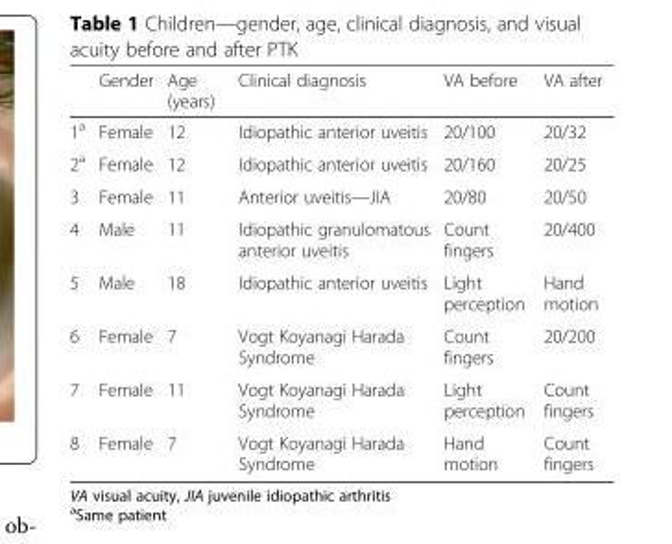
<table><thead><tr><td></td><td>Gender</td><td>Age (years)</td><td>Clinical diagnosis</td><td>VA before</td><td>VA after</td></tr></thead><tbody><tr><td>1<sup>a</sup></td><td>Female</td><td>12</td><td>Idiopathic anterior uveitis</td><td>20/100</td><td>20/32</td></tr><tr><td>2<sup>a</sup></td><td>Female</td><td>12</td><td>Idiopathic anterior uveitis</td><td>20/160</td><td>20/25</td></tr><tr><td>3</td><td>Female</td><td>11</td><td>Anterior uveitis—JIA</td><td>20/80</td><td>20/50</td></tr><tr><td>4</td><td>Male</td><td>11</td><td>Idiopathic granulomatous anterior uveitis</td><td>Count fingers</td><td>20/400</td></tr><tr><td>5</td><td>Male</td><td>18</td><td>Idiopathic anterior uveitis</td><td>Light perception</td><td>Hand motion</td></tr><tr><td>6</td><td>Female</td><td>7</td><td>Vogt Koyanagi Harada Syndrome</td><td>Count fingers</td><td>20/200</td></tr><tr><td>7</td><td>Female</td><td>11</td><td>Vogt Koyanagi Harada Syndrome</td><td>Light perception</td><td>Count fingers</td></tr><tr><td>8</td><td>Female</td><td>7</td><td>Vogt Koyanagi Harada Syndrome</td><td>Hand motion</td><td>Count fingers</td></tr></tbody></table>